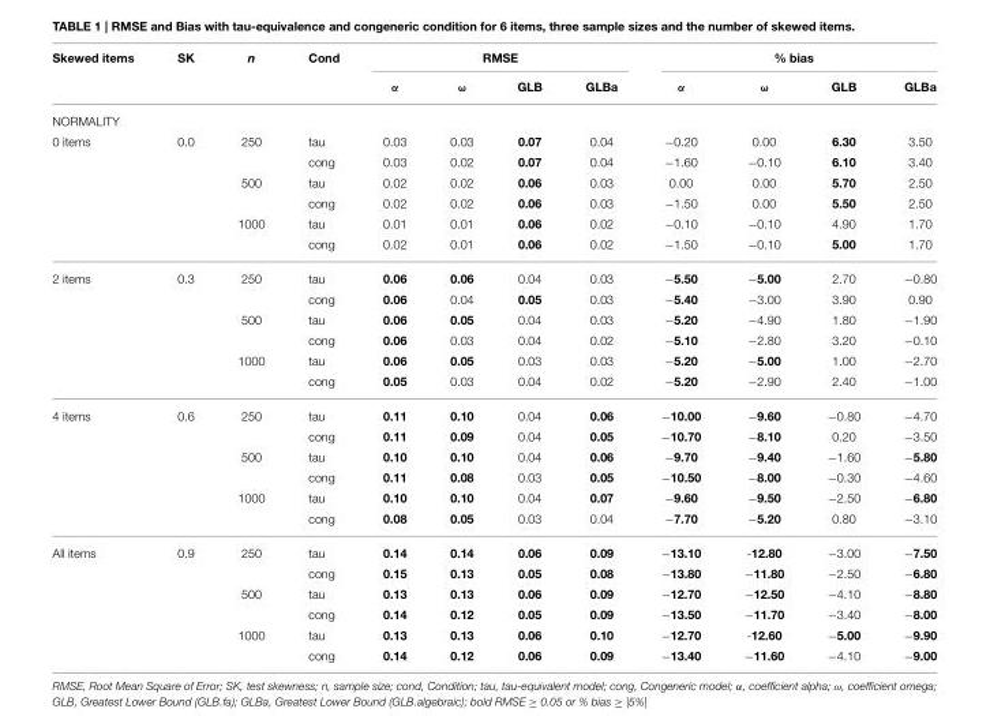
<table><thead><tr><td rowspan="2">Skewed items</td><td rowspan="2">SK</td><td rowspan="2">n</td><td rowspan="2">Cond</td><td colspan="4">RMSE</td><td colspan="4">% bias</td></tr><tr><td>α</td><td>ω</td><td>GLB</td><td>GLBa</td><td>α</td><td>ω</td><td>GLB</td><td>GLBa</td></tr></thead><tbody><tr><td colspan="12">NORMALITY</td></tr><tr><td rowspan="6">0 items</td><td>0.0</td><td>250</td><td>tau</td><td>0.03</td><td>0.03</td><td>0.07</td><td>0.04</td><td>−0.20</td><td>0.00</td><td>6.30</td><td>3.50</td></tr><tr><td></td><td></td><td>cong</td><td>0.03</td><td>0.02</td><td>0.07</td><td>0.04</td><td>−1.60</td><td>−0.10</td><td>6.10</td><td>3.40</td></tr><tr><td></td><td>500</td><td>tau</td><td>0.02</td><td>0.02</td><td>0.06</td><td>0.03</td><td>0.00</td><td>0.00</td><td>5.70</td><td>2.50</td></tr><tr><td></td><td></td><td>cong</td><td>0.02</td><td>0.02</td><td>0.06</td><td>0.03</td><td>−1.50</td><td>0.00</td><td>5.50</td><td>2.50</td></tr><tr><td></td><td>1000</td><td>tau</td><td>0.01</td><td>0.01</td><td>0.06</td><td>0.02</td><td>−0.10</td><td>−0.10</td><td>4.90</td><td>1.70</td></tr><tr><td></td><td></td><td>cong</td><td>0.02</td><td>0.01</td><td>0.06</td><td>0.02</td><td>−1.50</td><td>−0.10</td><td>5.00</td><td>1.70</td></tr><tr><td rowspan="6">2 items</td><td>0.3</td><td>250</td><td>tau</td><td>0.06</td><td>0.06</td><td>0.04</td><td>0.03</td><td>−5.50</td><td>−5.00</td><td>2.70</td><td>−0.80</td></tr><tr><td></td><td></td><td>cong</td><td>0.06</td><td>0.04</td><td>0.05</td><td>0.03</td><td>−5.40</td><td>−3.00</td><td>3.90</td><td>0.90</td></tr><tr><td></td><td>500</td><td>tau</td><td>0.06</td><td>0.05</td><td>0.04</td><td>0.03</td><td>−5.20</td><td>−4.90</td><td>1.80</td><td>−1.90</td></tr><tr><td></td><td></td><td>cong</td><td>0.06</td><td>0.03</td><td>0.04</td><td>0.02</td><td>−5.10</td><td>−2.80</td><td>3.20</td><td>−0.10</td></tr><tr><td></td><td>1000</td><td>tau</td><td>0.06</td><td>0.05</td><td>0.03</td><td>0.03</td><td>−5.20</td><td>−5.00</td><td>1.00</td><td>−2.70</td></tr><tr><td></td><td></td><td>cong</td><td>0.05</td><td>0.03</td><td>0.04</td><td>0.02</td><td>−5.20</td><td>−2.90</td><td>2.40</td><td>−1.00</td></tr><tr><td rowspan="6">4 items</td><td>0.6</td><td>250</td><td>tau</td><td>0.11</td><td>0.10</td><td>0.04</td><td>0.06</td><td>−10.00</td><td>−9.60</td><td>−0.80</td><td>−4.70</td></tr><tr><td></td><td></td><td>cong</td><td>0.11</td><td>0.09</td><td>0.04</td><td>0.05</td><td>−10.70</td><td>−8.10</td><td>0.20</td><td>−3.50</td></tr><tr><td></td><td>500</td><td>tau</td><td>0.10</td><td>0.10</td><td>0.04</td><td>0.06</td><td>−9.70</td><td>−9.40</td><td>−1.60</td><td>−5.80</td></tr><tr><td></td><td></td><td>cong</td><td>0.11</td><td>0.08</td><td>0.03</td><td>0.05</td><td>−10.50</td><td>−8.00</td><td>−0.30</td><td>−4.60</td></tr><tr><td></td><td>1000</td><td>tau</td><td>0.10</td><td>0.10</td><td>0.04</td><td>0.07</td><td>−9.60</td><td>−9.50</td><td>−2.50</td><td>−6.80</td></tr><tr><td></td><td></td><td>cong</td><td>0.08</td><td>0.05</td><td>0.03</td><td>0.04</td><td>−7.70</td><td>−5.20</td><td>0.80</td><td>−3.10</td></tr><tr><td rowspan="6">All items</td><td>0.9</td><td>250</td><td>tau</td><td>0.14</td><td>0.14</td><td>0.06</td><td>0.09</td><td>−13.10</td><td>-12.80</td><td>−3.00</td><td>−7.50</td></tr><tr><td></td><td></td><td>cong</td><td>0.15</td><td>0.13</td><td>0.05</td><td>0.08</td><td>−13.80</td><td>−11.80</td><td>−2.50</td><td>−6.80</td></tr><tr><td></td><td>500</td><td>tau</td><td>0.13</td><td>0.13</td><td>0.06</td><td>0.09</td><td>−12.70</td><td>−12.50</td><td>−4.10</td><td>−8.80</td></tr><tr><td></td><td></td><td>cong</td><td>0.14</td><td>0.12</td><td>0.05</td><td>0.09</td><td>−13.50</td><td>−11.70</td><td>−3.40</td><td>−8.00</td></tr><tr><td></td><td>1000</td><td>tau</td><td>0.13</td><td>0.13</td><td>0.06</td><td>0.10</td><td>−12.70</td><td>-12.60</td><td>−5.00</td><td>−9.90</td></tr><tr><td></td><td></td><td>cong</td><td>0.14</td><td>0.12</td><td>0.06</td><td>0.09</td><td>−13.40</td><td>−11.60</td><td>−4.10</td><td>−9.00</td></tr></tbody></table>